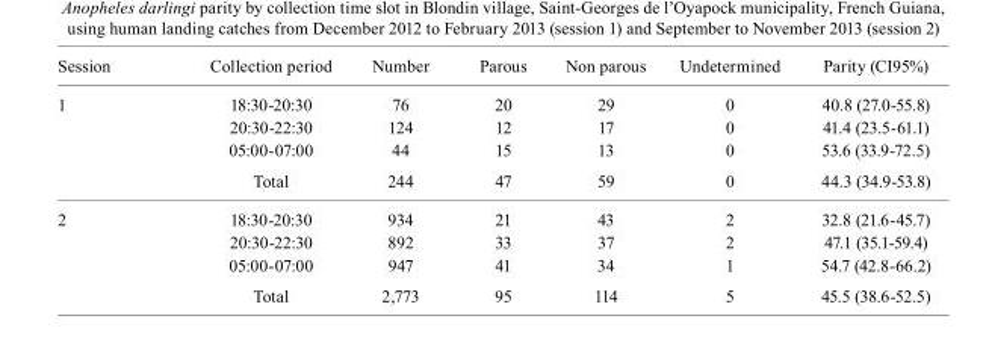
<table><thead><tr><td>Session</td><td>Collection period</td><td>Number</td><td>Parous</td><td>Non parous</td><td>Undetermined</td><td>Parity (CI95%)</td></tr></thead><tbody><tr><td rowspan="4">1</td><td>18:30-20:30</td><td>76</td><td>20</td><td>29</td><td>0</td><td>40.8 (27.0-55.8)</td></tr><tr><td>20:30-22:30</td><td>124</td><td>12</td><td>17</td><td>0</td><td>41.4 (23.5-61.1)</td></tr><tr><td>05:00-07:00</td><td>44</td><td>15</td><td>13</td><td>0</td><td>53.6 (33.9-72.5)</td></tr><tr><td>Total</td><td>244</td><td>47</td><td>59</td><td>0</td><td>44.3 (34.9-53.8)</td></tr><tr><td rowspan="4">2</td><td>18:30-20:30</td><td>934</td><td>21</td><td>43</td><td>2</td><td>32.8 (21.6-45.7)</td></tr><tr><td>20:30-22:30</td><td>892</td><td>33</td><td>37</td><td>2</td><td>47.1 (35.1-59.4)</td></tr><tr><td>05:00-07:00</td><td>947</td><td>41</td><td>34</td><td>1</td><td>54.7 (42.8-66.2)</td></tr><tr><td>Total</td><td>2,773</td><td>95</td><td>114</td><td>5</td><td>45.5 (38.6-52.5)</td></tr></tbody></table>